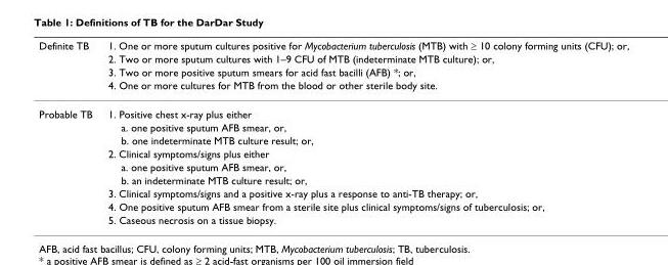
<table><thead><tr><td rowspan="4">Definite TB</td><td rowspan="4">1. One or more sputum cultures positive for Mycobacterium tuberculosis (MTB) with ≥ 10 colony forming units (CFU); or, 2. Two or more sputum cultures with 1–9 CFU of MTB (indeterminate MTB culture); or, 3. Two or more positive sputum smears for acid fast bacilli (AFB) *; or, 4. One or more cultures for MTB from the blood or other sterile body site.</td></tr><tr></tr><tr></tr><tr></tr></thead><tbody><tr><td rowspan="9">Probable TB</td><td>1. Positive chest x-ray plus either</td></tr><tr><td>a. one positive sputum AFB smear, or,</td></tr><tr><td>b. one indeterminate MTB culture result; or,</td></tr><tr><td>2. Clinical symptoms/signs plus either</td></tr><tr><td>a. one positive sputum AFB smear, or,</td></tr><tr><td>b. an indeterminate MTB culture result; or,</td></tr><tr><td>3. Clinical symptoms/signs and a positive x-ray plus a response to anti-TB therapy; or,</td></tr><tr><td>4. One positive sputum AFB smear from a sterile site plus clinical symptoms/signs of tuberculosis; or,</td></tr><tr><td>5. Caseous necrosis on a tissue biopsy.</td></tr></tbody></table>